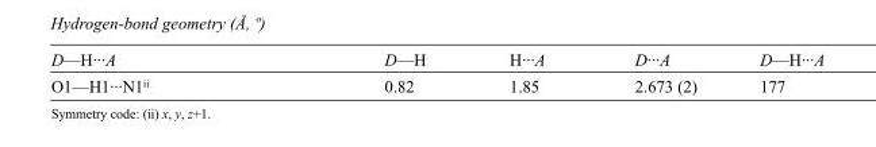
<table><tbody><tr><td>D—H···A</td><td>D—H</td><td>H···A</td><td>D···A</td><td>D—H···A</td></tr><tr><td>O1—H1···N1<sup>ii</sup></td><td>0.82</td><td>1.85</td><td>2.673 (2)</td><td>177</td></tr></tbody></table>